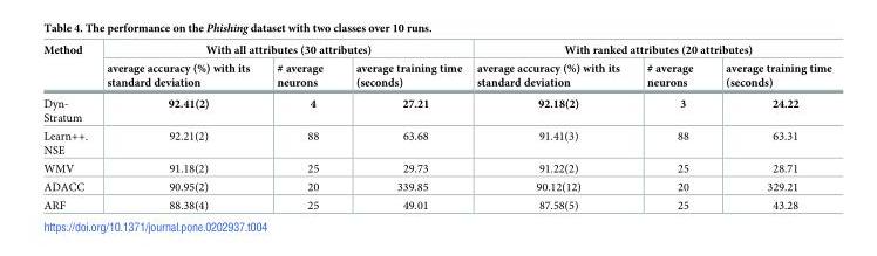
<table><thead><tr><td rowspan="2">Method</td><td colspan="3">With all attributes (30 attributes)</td><td colspan="3">With ranked attributes (20 attributes)</td></tr><tr><td>average accuracy (%) with its standard deviation</td><td># average neurons</td><td>average training time (seconds)</td><td>average accuracy (%) with its standard deviation</td><td># average neurons</td><td>average training time (seconds)</td></tr></thead><tbody><tr><td>Dyn- Stratum</td><td>92.41(2)</td><td>4</td><td>27.21</td><td>92.18(2)</td><td>3</td><td>24.22</td></tr><tr><td>Learn++. NSE</td><td>92.21(2)</td><td>88</td><td>63.68</td><td>91.41(3)</td><td>88</td><td>63.31</td></tr><tr><td>WMV</td><td>91.18(2)</td><td>25</td><td>29.73</td><td>91.22(2)</td><td>25</td><td>28.71</td></tr><tr><td>ADACC</td><td>90.95(2)</td><td>20</td><td>339.85</td><td>90.12(12)</td><td>20</td><td>329.21</td></tr><tr><td>ARF</td><td>88.38(4)</td><td>25</td><td>49.01</td><td>87.58(5)</td><td>25</td><td>43.28</td></tr></tbody></table>